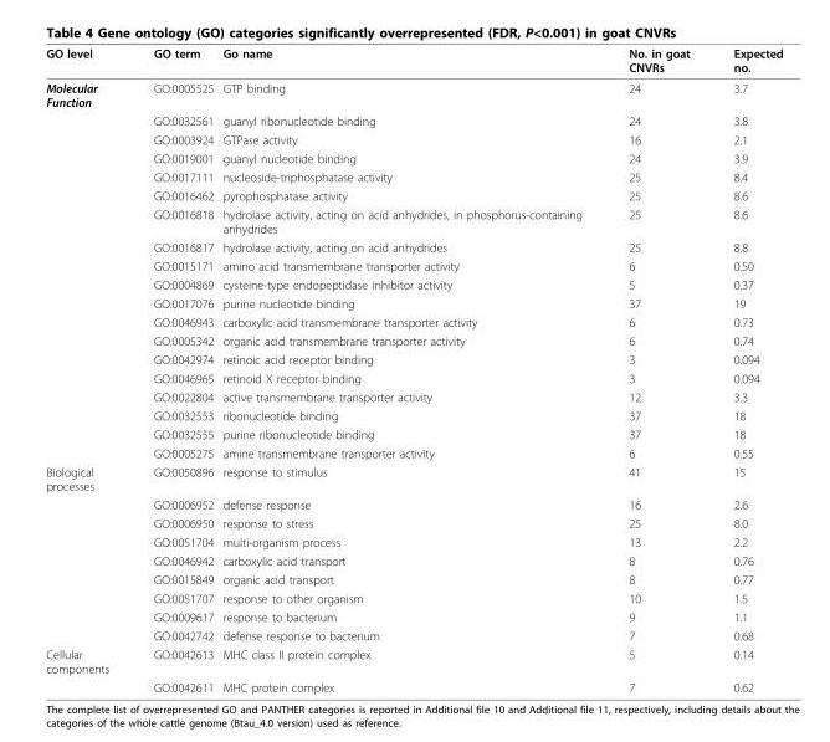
<table><thead><tr><td>GO level</td><td>GO term</td><td>Go name</td><td>No. in goat CNVRs</td><td>Expected no.</td></tr></thead><tbody><tr><td rowspan="19">Molecular Function</td><td>GO:0005525</td><td>GTP binding</td><td>24</td><td>3.7</td></tr><tr><td>GO:0032561</td><td>guanyl ribonucleotide binding</td><td>24</td><td>3.8</td></tr><tr><td>GO:0003924</td><td>GTPase activity</td><td>16</td><td>2.1</td></tr><tr><td>GO:0019001</td><td>guanyl nucleotide binding</td><td>24</td><td>3.9</td></tr><tr><td>GO:0017111</td><td>nucleoside-triphosphatase activity</td><td>25</td><td>8.4</td></tr><tr><td>GO:0016462</td><td>pyrophosphatase activity</td><td>25</td><td>8.6</td></tr><tr><td>GO:0016818</td><td>hydrolase activity, acting on acid anhydrides, in phosphorus-containing anhydrides</td><td>25</td><td>8.6</td></tr><tr><td>GO:0016817</td><td>hydrolase activity, acting on acid anhydrides</td><td>25</td><td>8.8</td></tr><tr><td>GO:0015171</td><td>amino acid transmembrane transporter activity</td><td>6</td><td>0.50</td></tr><tr><td>GO:0004869</td><td>cysteine-type endopeptidase inhibitor activity</td><td>5</td><td>0.37</td></tr><tr><td>GO:0017076</td><td>purine nucleotide binding</td><td>37</td><td>19</td></tr><tr><td>GO:0046943</td><td>carboxylic acid transmembrane transporter activity</td><td>6</td><td>0.73</td></tr><tr><td>GO:0005342</td><td>organic acid transmembrane transporter activity</td><td>6</td><td>0.74</td></tr><tr><td>GO:0042974</td><td>retinoic acid receptor binding</td><td>3</td><td>0.094</td></tr><tr><td>GO:0046965</td><td>retinoid X receptor binding</td><td>3</td><td>0.094</td></tr><tr><td>GO:0022804</td><td>active transmembrane transporter activity</td><td>12</td><td>3.3</td></tr><tr><td>GO:0032553</td><td>ribonucleotide binding</td><td>37</td><td>18</td></tr><tr><td>GO:0032555</td><td>purine ribonucleotide binding</td><td>37</td><td>18</td></tr><tr><td>GO:0005275</td><td>amine transmembrane transporter activity</td><td>6</td><td>0.55</td></tr><tr><td rowspan="9">Biological processes</td><td>GO:0050896</td><td>response to stimulus</td><td>41</td><td>15</td></tr><tr><td>GO:0006952</td><td>defense response</td><td>16</td><td>2.6</td></tr><tr><td>GO:0006950</td><td>response to stress</td><td>25</td><td>8.0</td></tr><tr><td>GO:0051704</td><td>multi-organism process</td><td>13</td><td>2.2</td></tr><tr><td>GO:0046942</td><td>carboxylic acid transport</td><td>8</td><td>0.76</td></tr><tr><td>GO:0015849</td><td>organic acid transport</td><td>8</td><td>0.77</td></tr><tr><td>GO:0051707</td><td>response to other organism</td><td>10</td><td>1.5</td></tr><tr><td>GO:0009617</td><td>response to bacterium</td><td>9</td><td>1.1</td></tr><tr><td>GO:0042742</td><td>defense response to bacterium</td><td>7</td><td>0.68</td></tr><tr><td rowspan="2">Cellular components</td><td>GO:0042613</td><td>MHC class II protein complex</td><td>5</td><td>0.14</td></tr><tr><td>GO:0042611</td><td>MHC protein complex</td><td>7</td><td>0.62</td></tr></tbody></table>